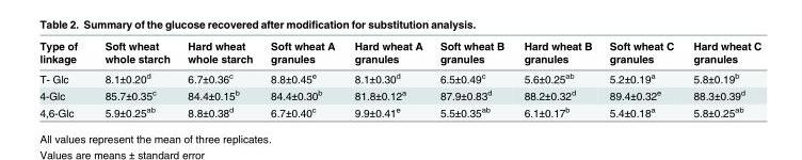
<table><thead><tr><td>Type of linkage</td><td>Soft wheat whole starch</td><td>Hard wheat whole starch</td><td>Soft wheat A granules</td><td>Hard wheat A granules</td><td>Soft wheat B granules</td><td>Hard wheat B granules</td><td>Soft wheat C granules</td><td>Hard wheat C granules</td></tr></thead><tbody><tr><td>T- Glc</td><td>8.1±0.20<sup>d</sup></td><td>6.7±0.36<sup>c</sup></td><td>8.8±0.45<sup>e</sup></td><td>8.1±0.30<sup>d</sup></td><td>6.5±0.49<sup>c</sup></td><td>5.6±0.25<sup>ab</sup></td><td>5.2±0.19<sup>a</sup></td><td>5.8±0.19<sup>b</sup></td></tr><tr><td>4-Glc</td><td>85.7±0.35<sup>c</sup></td><td>84.4±0.15<sup>b</sup></td><td>84.4±0.30<sup>b</sup></td><td>81.8±0.12<sup>a</sup></td><td>87.9±0.83<sup>d</sup></td><td>88.2±0.32<sup>d</sup></td><td>89.4±0.32<sup>e</sup></td><td>88.3±0.39<sup>d</sup></td></tr><tr><td>4,6-Glc</td><td>5.9±0.25<sup>ab</sup></td><td>8.8±0.38<sup>d</sup></td><td>6.7±0.40<sup>c</sup></td><td>9.9±0.41<sup>e</sup></td><td>5.5±0.35<sup>ab</sup></td><td>6.1±0.17<sup>b</sup></td><td>5.4±0.18<sup>a</sup></td><td>5.8±0.25<sup>ab</sup></td></tr></tbody></table>